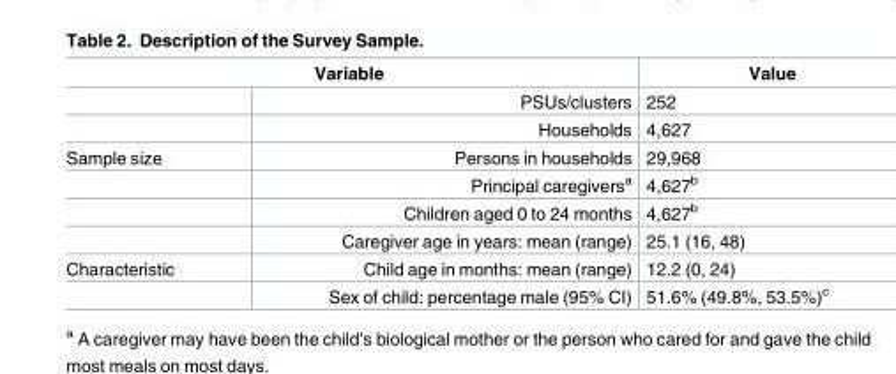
<table><thead><tr><td colspan="2">Variable</td><td rowspan="2">Value 252</td></tr><tr><td></td><td>PSUs/clusters</td></tr></thead><tbody><tr><td></td><td>Households</td><td>4,627</td></tr><tr><td rowspan="4">Sample size</td><td>Persons in households</td><td>29,968</td></tr><tr><td>Principal caregivers<sup>a</sup></td><td>4,627<sup>b</sup></td></tr><tr><td>Children aged 0 to 24 months</td><td>4,627<sup>b</sup></td></tr><tr><td>Caregiver age in years: mean (range)</td><td>25.1 (16, 48)</td></tr><tr><td rowspan="2">Characteristic</td><td>Child age in months: mean (range)</td><td>12.2 (0, 24)</td></tr><tr><td>Sex of child: percentage male (95% CI)</td><td>51.6% (49.8%, 53.5%)<sup>c</sup></td></tr></tbody></table>